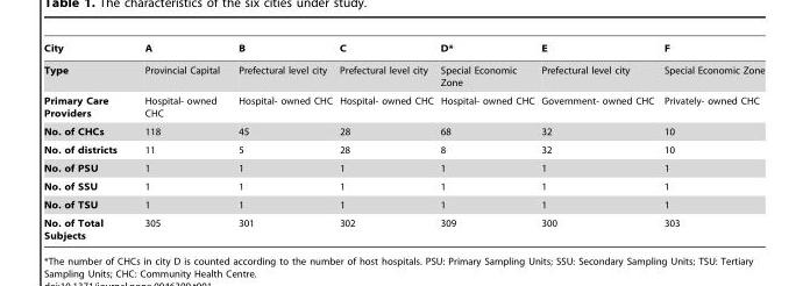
<table><thead><tr><td>City</td><td>A</td><td>B</td><td>C</td><td>D*</td><td>E</td><td>F</td></tr></thead><tbody><tr><td>Type</td><td>Provincial Capital</td><td>Prefectural level city</td><td>Prefectural level city</td><td>Special Economic Zone</td><td>Prefectural level city</td><td>Special Economic Zone</td></tr><tr><td>Primary Care Providers</td><td>Hospital- owned CHC</td><td>Hospital- owned CHC</td><td>Hospital- owned CHC</td><td>Hospital- owned CHC</td><td>Government- owned CHC</td><td>Privately- owned CHC</td></tr><tr><td>No. of CHCs</td><td>118</td><td>45</td><td>28</td><td>68</td><td>32</td><td>10</td></tr><tr><td>No. of districts</td><td>11</td><td>5</td><td>28</td><td>8</td><td>32</td><td>10</td></tr><tr><td>No. of PSU</td><td>1</td><td>1</td><td>1</td><td>1</td><td>1</td><td>1</td></tr><tr><td>No. of SSU</td><td>1</td><td>1</td><td>1</td><td>1</td><td>1</td><td>1</td></tr><tr><td>No. of TSU</td><td>1</td><td>1</td><td>1</td><td>1</td><td>1</td><td>1</td></tr><tr><td>No. of Total Subjects</td><td>305</td><td>301</td><td>302</td><td>309</td><td>300</td><td>303</td></tr></tbody></table>